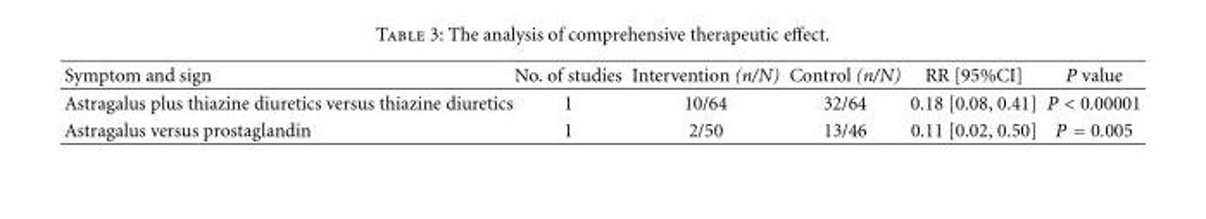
<table><thead><tr><td>Symptom and sign</td><td>No. of studies</td><td>Intervention (n/N)</td><td>Control (n/N)</td><td>RR [95%CI]</td><td>P value</td></tr></thead><tbody><tr><td>Astragalus plus thiazine diuretics versus thiazine diuretics</td><td>1</td><td>10/64</td><td>32/64</td><td>0.18 [0.08, 0.41]</td><td>P &lt; 0.00001</td></tr><tr><td>Astragalus versus prostaglandin</td><td>1</td><td>2/50</td><td>13/46</td><td>0.11 [0.02, 0.50]</td><td>P = 0.005</td></tr></tbody></table>